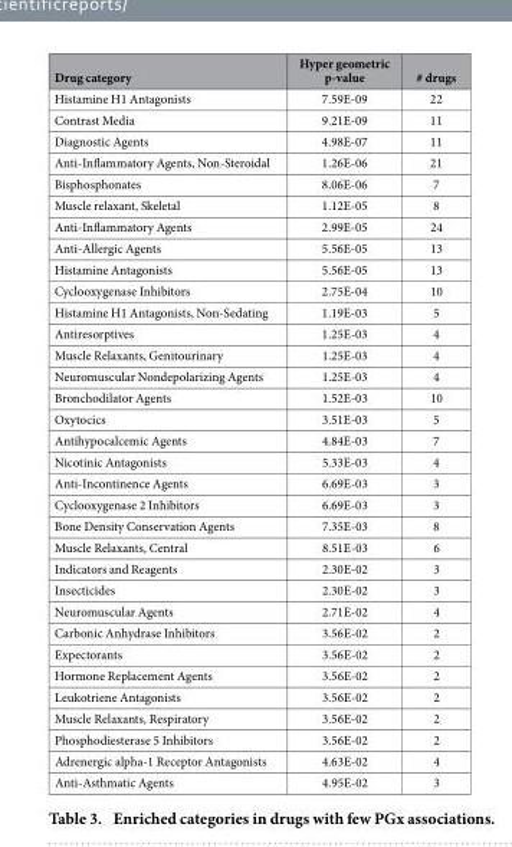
<table><thead><tr><td>Drug category</td><td>Hyper geometric p-value</td><td># drugs</td></tr></thead><tbody><tr><td>Histamine H1 Antagonists</td><td>7.59E-09</td><td>22</td></tr><tr><td>Contrast Media</td><td>9.21E-09</td><td>11</td></tr><tr><td>Diagnostic Agents</td><td>4.98E-07</td><td>11</td></tr><tr><td>Anti-Inflammatory Agents, Non-Steroidal</td><td>1.26E-06</td><td>21</td></tr><tr><td>Bisphosphonates</td><td>8.06E-06</td><td>7</td></tr><tr><td>Muscle relaxant, Skeletal</td><td>1.12E-05</td><td>8</td></tr><tr><td>Anti-Inflammatory Agents</td><td>2.99E-05</td><td>24</td></tr><tr><td>Anti-Allergic Agents</td><td>5.56E-05</td><td>13</td></tr><tr><td>Histamine Antagonists</td><td>5.56E-05</td><td>13</td></tr><tr><td>Cyclooxygenase Inhibitors</td><td>2.75E-04</td><td>10</td></tr><tr><td>Histamine H1 Antagonists, Non-Sedating</td><td>1.19E-03</td><td>5</td></tr><tr><td>Antiresorptives</td><td>1.25E-03</td><td>4</td></tr><tr><td>Muscle Relaxants, Genitourinary</td><td>1.25E-03</td><td>4</td></tr><tr><td>Neuromuscular Nondepolarizing Agents</td><td>1.25E-03</td><td>4</td></tr><tr><td>Bronchodilator Agents</td><td>1.52E-03</td><td>10</td></tr><tr><td>Oxytocics</td><td>3.51E-03</td><td>5</td></tr><tr><td>Antihypocalcemic Agents</td><td>4.84E-03</td><td>7</td></tr><tr><td>Nicotinic Antagonists</td><td>5.33E-03</td><td>4</td></tr><tr><td>Anti-Incontinence Agents</td><td>6.69E-03</td><td>3</td></tr><tr><td>Cyclooxygenase 2 Inhibitors</td><td>6.69E-03</td><td>3</td></tr><tr><td>Bone Density Conservation Agents</td><td>7.35E-03</td><td>8</td></tr><tr><td>Muscle Relaxants, Central</td><td>8.51E-03</td><td>6</td></tr><tr><td>Indicators and Reagents</td><td>2.30E-02</td><td>3</td></tr><tr><td>Insecticides</td><td>2.30E-02</td><td>3</td></tr><tr><td>Neuromuscular Agents</td><td>2.71E-02</td><td>4</td></tr><tr><td>Carbonic Anhydrase Inhibitors</td><td>3.56E-02</td><td>2</td></tr><tr><td>Expectorants</td><td>3.56E-02</td><td>2</td></tr><tr><td>Hormone Replacement Agents</td><td>3.56E-02</td><td>2</td></tr><tr><td>Leukotriene Antagonists</td><td>3.56E-02</td><td>2</td></tr><tr><td>Muscle Relaxants, Respiratory</td><td>3.56E-02</td><td>2</td></tr><tr><td>Phosphodiesterase 5 Inhibitors</td><td>3.56E-02</td><td>2</td></tr><tr><td>Adrenergic alpha-1 Receptor Antagonists</td><td>4.63E-02</td><td>4</td></tr><tr><td>Anti-Asthmatic Agents</td><td>4.95E-02</td><td>3</td></tr></tbody></table>